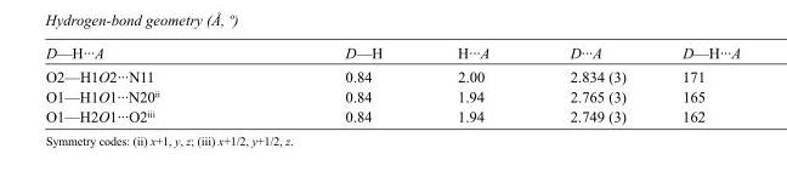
<table><tbody><tr><td>D—H···A</td><td>D—H</td><td>H···A</td><td>D···A</td><td>D—H···A</td></tr><tr><td>O2—H1O2···N11</td><td>0.84</td><td>2.00</td><td>2.834 (3)</td><td>171</td></tr><tr><td>O1—H1O1···N20<sup>ii</sup></td><td>0.84</td><td>1.94</td><td>2.765 (3)</td><td>165</td></tr><tr><td>O1—H2O1···O2<sup>iii</sup></td><td>0.84</td><td>1.94</td><td>2.749 (3)</td><td>162</td></tr></tbody></table>